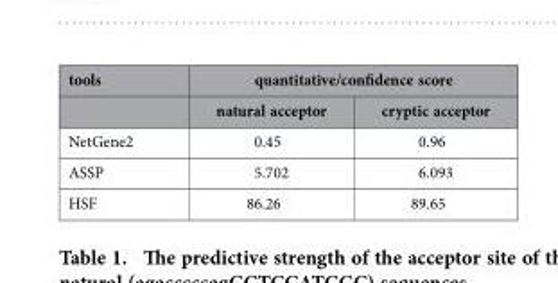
<table><thead><tr><td rowspan="2">tools</td><td colspan="2">quantitative/confidence score</td></tr><tr><td>natural acceptor</td><td>cryptic acceptor</td></tr></thead><tbody><tr><td>NetGene2</td><td>0.45</td><td>0.96</td></tr><tr><td>ASSP</td><td>5.702</td><td>6.093</td></tr><tr><td>HSF</td><td>86.26</td><td>89.65</td></tr></tbody></table>